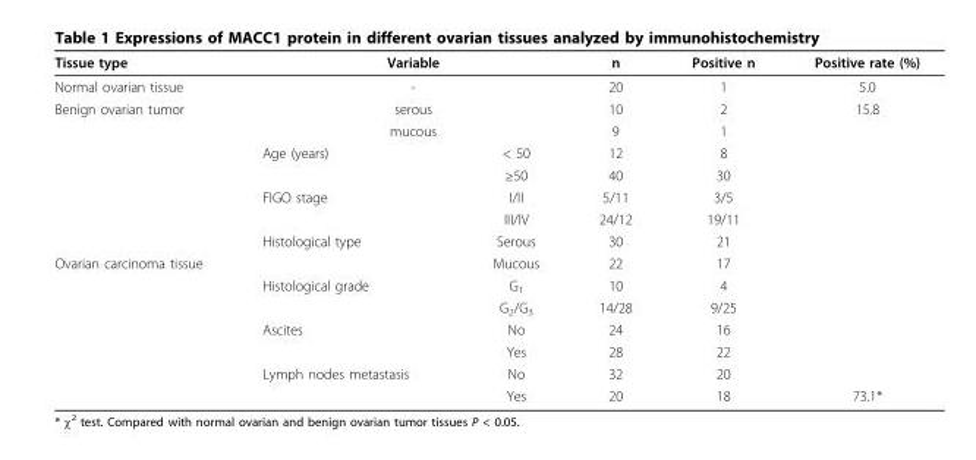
<table><thead><tr><td>Tissue type</td><td colspan="2">Variable</td><td>n</td><td>Positive n</td><td>Positive rate (%)</td></tr></thead><tbody><tr><td>Normal ovarian tissue</td><td colspan="2">-</td><td>20</td><td>1</td><td>5.0</td></tr><tr><td rowspan="7">Benign ovarian tumor</td><td colspan="2">serous</td><td>10</td><td>2</td><td>15.8</td></tr><tr><td colspan="2">mucous</td><td>9</td><td>1</td><td></td></tr><tr><td>Age (years)</td><td>&lt; 50</td><td>12</td><td>8</td><td></td></tr><tr><td></td><td>≥50</td><td>40</td><td>30</td><td></td></tr><tr><td>FIGO stage</td><td>I/II</td><td>5/11</td><td>3/5</td><td></td></tr><tr><td></td><td>III/IV</td><td>24/12</td><td>19/11</td><td></td></tr><tr><td>Histological type</td><td>Serous</td><td>30</td><td>21</td><td></td></tr><tr><td rowspan="7">Ovarian carcinoma tissue</td><td></td><td>Mucous</td><td>22</td><td>17</td><td></td></tr><tr><td>Histological grade</td><td>G<sub>1</sub></td><td>10</td><td>4</td><td></td></tr><tr><td></td><td>G<sub>2</sub>/G<sub>3</sub></td><td>14/28</td><td>9/25</td><td></td></tr><tr><td>Ascites</td><td>No</td><td>24</td><td>16</td><td></td></tr><tr><td></td><td>Yes</td><td>28</td><td>22</td><td></td></tr><tr><td>Lymph nodes metastasis</td><td>No</td><td>32</td><td>20</td><td></td></tr><tr><td></td><td>Yes</td><td>20</td><td>18</td><td>73.1*</td></tr></tbody></table>